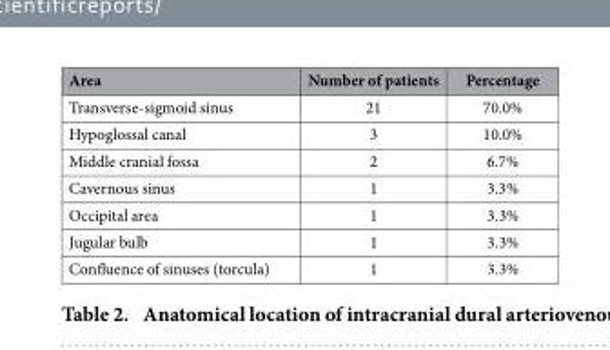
<table><thead><tr><td>Area</td><td>Number of patients</td><td>Percentage</td></tr></thead><tbody><tr><td>Transverse-sigmoid sinus</td><td>21</td><td>70.0%</td></tr><tr><td>Hypoglossal canal</td><td>3</td><td>10.0%</td></tr><tr><td>Middle cranial fossa</td><td>2</td><td>6.7%</td></tr><tr><td>Cavernous sinus</td><td>1</td><td>3.3%</td></tr><tr><td>Occipital area</td><td>1</td><td>3.3%</td></tr><tr><td>Jugular bulb</td><td>1</td><td>3.3%</td></tr><tr><td>Confluence of sinuses (torcula)</td><td>1</td><td>3.3%</td></tr></tbody></table>